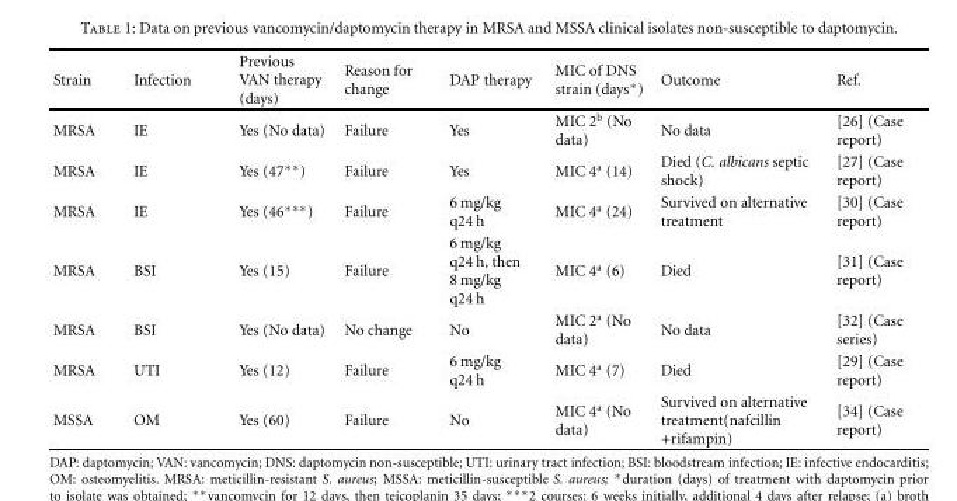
<table><thead><tr><td>Strain</td><td>Infection</td><td>Previous VAN therapy (days)</td><td>Reason for change</td><td>DAP therapy</td><td>MIC of DNS strain (days∗)</td><td>Outcome</td><td>Ref.</td></tr></thead><tbody><tr><td>MRSA</td><td>IE</td><td>Yes (No data)</td><td>Failure</td><td>Yes</td><td>MIC 2<sup>b</sup> (No data)</td><td>No data</td><td>[26] (Case report)</td></tr><tr><td>MRSA</td><td>IE</td><td>Yes (47∗∗)</td><td>Failure</td><td>Yes</td><td>MIC 4<sup>a</sup> (14)</td><td>Died (C. albicans septic shock)</td><td>[27] (Case report)</td></tr><tr><td>MRSA</td><td>IE</td><td>Yes (46∗∗∗)</td><td>Failure</td><td>6 mg/kg q24 h</td><td>MIC 4<sup>a</sup> (24)</td><td>Survived on alternative treatment</td><td>[30] (Case report)</td></tr><tr><td>MRSA</td><td>BSI</td><td>Yes (15)</td><td>Failure</td><td>6 mg/kg q24 h, then 8 mg/kg q24 h</td><td>MIC 4<sup>a</sup> (6)</td><td>Died</td><td>[31] (Case report)</td></tr><tr><td>MRSA</td><td>BSI</td><td>Yes (No data)</td><td>No change</td><td>No</td><td>MIC 2<sup>a</sup> (No data)</td><td>No data</td><td>[32] (Case series)</td></tr><tr><td>MRSA</td><td>UTI</td><td>Yes (12)</td><td>Failure</td><td>6 mg/kg q24 h</td><td>MIC 4<sup>a</sup> (7)</td><td>Died</td><td>[29] (Case report)</td></tr><tr><td>MSSA</td><td>OM</td><td>Yes (60)</td><td>Failure</td><td>No</td><td>MIC 4<sup>a</sup> (No data)</td><td>Survived on alternative treatment(nafcillin +rifampin)</td><td>[34] (Case report)</td></tr></tbody></table>